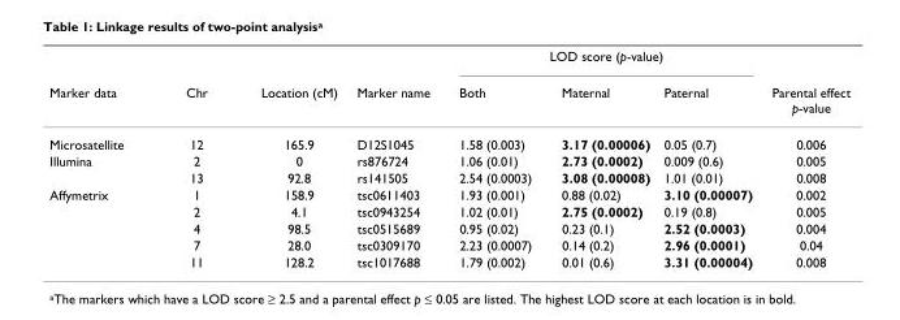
<table><thead><tr><td rowspan="2">Marker data</td><td rowspan="2">Chr</td><td rowspan="2">Location (cM)</td><td rowspan="2">Marker name</td><td colspan="3">LOD score (p-value)</td><td rowspan="2">Parental effect p-value</td></tr><tr><td>Both</td><td>Maternal</td><td>Paternal</td></tr></thead><tbody><tr><td>Microsatellite</td><td>12</td><td>165.9</td><td>D12S1045</td><td>1.58 (0.003)</td><td>3.17 (0.00006)</td><td>0.05 (0.7)</td><td>0.006</td></tr><tr><td rowspan="2">Illumina</td><td>2</td><td>0</td><td>rs876724</td><td>1.06 (0.01)</td><td>2.73 (0.0002)</td><td>0.009 (0.6)</td><td>0.005</td></tr><tr><td>13</td><td>92.8</td><td>rs141505</td><td>2.54 (0.0003)</td><td>3.08 (0.00008)</td><td>1.01 (0.01)</td><td>0.008</td></tr><tr><td rowspan="5">Affymetrix</td><td>1</td><td>158.9</td><td>tsc0611403</td><td>1.93 (0.001)</td><td>0.88 (0.02)</td><td>3.10 (0.00007)</td><td>0.002</td></tr><tr><td>2</td><td>4.1</td><td>tsc0943254</td><td>1.02 (0.01)</td><td>2.75 (0.0002)</td><td>0.19 (0.8)</td><td>0.005</td></tr><tr><td>4</td><td>98.5</td><td>tsc0515689</td><td>0.95 (0.02)</td><td>0.23 (0.1)</td><td>2.52 (0.0003)</td><td>0.004</td></tr><tr><td>7</td><td>28.0</td><td>tsc0309170</td><td>2.23 (0.0007)</td><td>0.14 (0.2)</td><td>2.96 (0.0001)</td><td>0.04</td></tr><tr><td>11</td><td>128.2</td><td>tsc1017688</td><td>1.79 (0.002)</td><td>0.01 (0.6)</td><td>3.31 (0.00004)</td><td>0.008</td></tr></tbody></table>